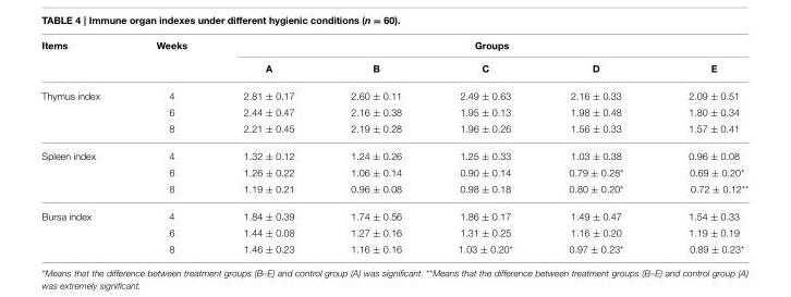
<table><thead><tr><td rowspan="2">Items</td><td rowspan="2">Weeks</td><td colspan="5">Groups</td></tr><tr><td>A</td><td>B</td><td>C</td><td>D</td><td>E</td></tr></thead><tbody><tr><td rowspan="3">Thymus index</td><td>4</td><td>2.81 ± 0.17</td><td>2.60 ± 0.11</td><td>2.49 ± 0.63</td><td>2.16 ± 0.33</td><td>2.09 ± 0.51</td></tr><tr><td>6</td><td>2.44 ± 0.47</td><td>2.16 ± 0.38</td><td>1.95 ± 0.13</td><td>1.98 ± 0.48</td><td>1.80 ± 0.34</td></tr><tr><td>8</td><td>2.21 ± 0.45</td><td>2.19 ± 0.28</td><td>1.96 ± 0.26</td><td>1.56 ± 0.33</td><td>1.57 ± 0.41</td></tr><tr><td rowspan="3">Spleen index</td><td>4</td><td>1.32 ± 0.12</td><td>1.24 ± 0.26</td><td>1.25 ± 0.33</td><td>1.03 ± 0.38</td><td>0.96 ± 0.08</td></tr><tr><td>6</td><td>1.26 ± 0.22</td><td>1.06 ± 0.14</td><td>0.90 ± 0.14</td><td>0.79 ± 0.28*</td><td>0.69 ± 0.20*</td></tr><tr><td>8</td><td>1.19 ± 0.21</td><td>0.96 ± 0.08</td><td>0.98 ± 0.18</td><td>0.80 ± 0.20*</td><td>0.72 ± 0.12**</td></tr><tr><td rowspan="3">Bursa index</td><td>4</td><td>1.84 ± 0.39</td><td>1.74 ± 0.56</td><td>1.86 ± 0.17</td><td>1.49 ± 0.47</td><td>1.54 ± 0.33</td></tr><tr><td>6</td><td>1.44 ± 0.08</td><td>1.27 ± 0.16</td><td>1.31 ± 0.25</td><td>1.16 ± 0.20</td><td>1.19 ± 0.19</td></tr><tr><td>8</td><td>1.46 ± 0.23</td><td>1.16 ± 0.16</td><td>1.03 ± 0.20*</td><td>0.97 ± 0.23*</td><td>0.89 ± 0.23*</td></tr></tbody></table>